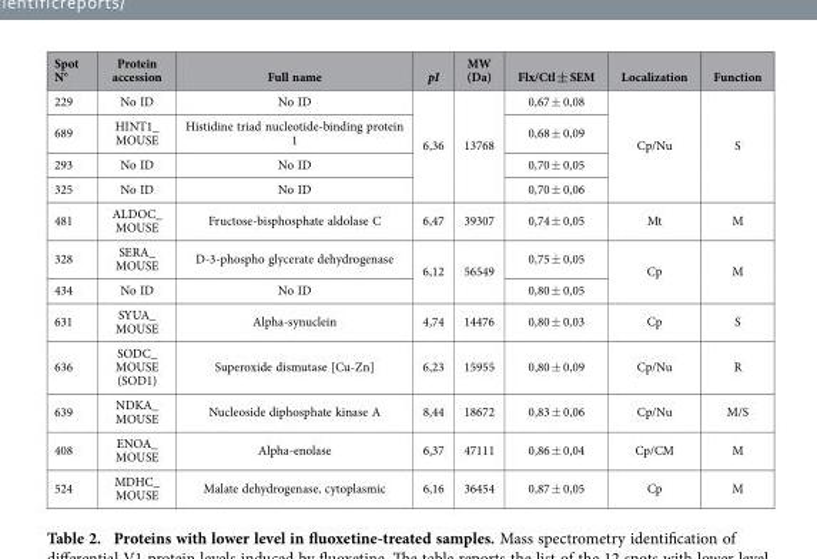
<table><thead><tr><td>Spot N°</td><td>Protein accession</td><td>Full name</td><td>pI</td><td>MW (Da)</td><td>Flx/Ctl ± SEM</td><td>Localization</td><td>Function</td></tr></thead><tbody><tr><td>229</td><td>No ID</td><td>No ID</td><td rowspan="4">6,36</td><td rowspan="4">13768</td><td>0,67 ± 0,08</td><td rowspan="4">Cp/Nu</td><td rowspan="4">S</td></tr><tr><td>689</td><td>HINT1_ MOUSE</td><td>Histidine triad nucleotide-binding protein 1</td><td>0,68 ± 0,09</td></tr><tr><td>293</td><td>No ID</td><td>No ID</td><td>0,70 ± 0,05</td></tr><tr><td>325</td><td>No ID</td><td>No ID</td><td>0,70 ± 0,06</td></tr><tr><td>481</td><td>ALDOC_ MOUSE</td><td>Fructose-bisphosphate aldolase C</td><td>6,47</td><td>39307</td><td>0,74 ± 0,05</td><td>Mt</td><td>M</td></tr><tr><td>328</td><td>SERA_ MOUSE</td><td>D-3-phospho glycerate dehydrogenase</td><td rowspan="2">6,12</td><td rowspan="2">56549</td><td>0,75 ± 0,05</td><td rowspan="2">Cp</td><td rowspan="2">M</td></tr><tr><td>434</td><td>No ID</td><td>No ID</td><td>0,80 ± 0,05</td></tr><tr><td>631</td><td>SYUA_ MOUSE</td><td>Alpha-synuclein</td><td>4,74</td><td>14476</td><td>0,80 ± 0,03</td><td>Cp</td><td>S</td></tr><tr><td>636</td><td>SODC_ MOUSE (SOD1)</td><td>Superoxide dismutase [Cu-Zn]</td><td>6,23</td><td>15955</td><td>0,80 ± 0,09</td><td>Cp/Nu</td><td>R</td></tr><tr><td>639</td><td>NDKA_ MOUSE</td><td>Nucleoside diphosphate kinase A</td><td>8,44</td><td>18672</td><td>0,83 ± 0,06</td><td>Cp/Nu</td><td>M/S</td></tr><tr><td>408</td><td>ENOA_ MOUSE</td><td>Alpha-enolase</td><td>6,37</td><td>47111</td><td>0,86 ± 0,04</td><td>Cp/CM</td><td>M</td></tr><tr><td>524</td><td>MDHC_ MOUSE</td><td>Malate dehydrogenase, cytoplasmic</td><td>6,16</td><td>36454</td><td>0,87 ± 0,05</td><td>Cp</td><td>M</td></tr></tbody></table>